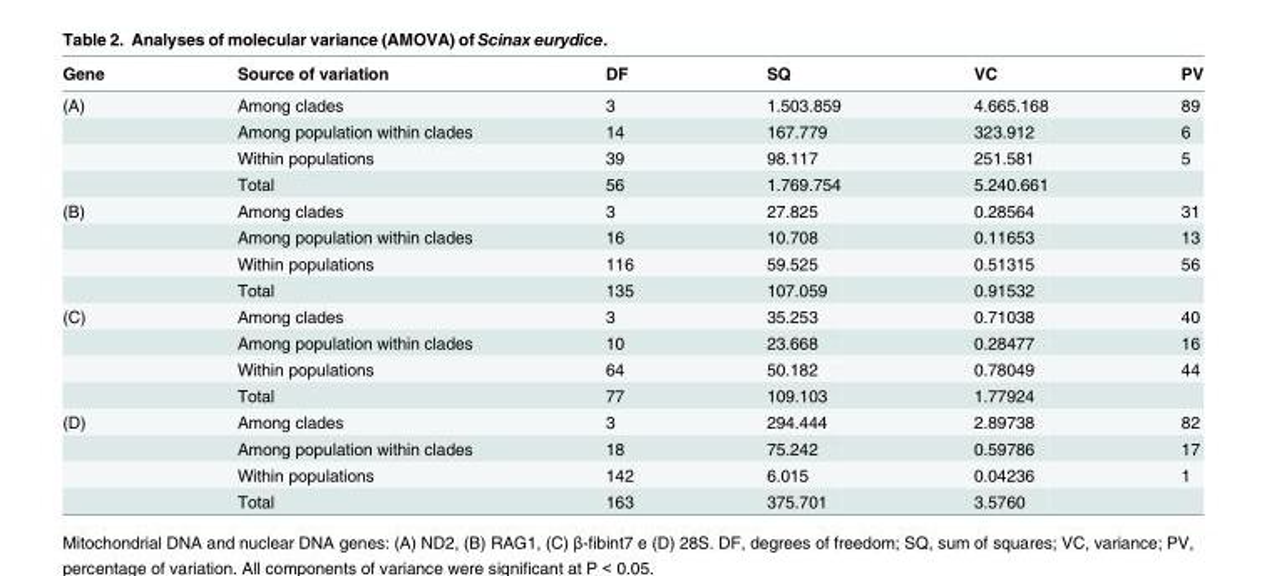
<table><thead><tr><td>Gene</td><td>Source of variation</td><td>DF</td><td>SQ</td><td>VC</td><td>PV</td></tr></thead><tbody><tr><td rowspan="4">(A)</td><td>Among clades</td><td>3</td><td>1.503.859</td><td>4.665.168</td><td>89</td></tr><tr><td>Among population within clades</td><td>14</td><td>167.779</td><td>323.912</td><td>6</td></tr><tr><td>Within populations</td><td>39</td><td>98.117</td><td>251.581</td><td>5</td></tr><tr><td>Total</td><td>56</td><td>1.769.754</td><td>5.240.661</td><td></td></tr><tr><td rowspan="4">(B)</td><td>Among clades</td><td>3</td><td>27.825</td><td>0.28564</td><td>31</td></tr><tr><td>Among population within clades</td><td>16</td><td>10.708</td><td>0.11653</td><td>13</td></tr><tr><td>Within populations</td><td>116</td><td>59.525</td><td>0.51315</td><td>56</td></tr><tr><td>Total</td><td>135</td><td>107.059</td><td>0.91532</td><td></td></tr><tr><td rowspan="4">(C)</td><td>Among clades</td><td>3</td><td>35.253</td><td>0.71038</td><td>40</td></tr><tr><td>Among population within clades</td><td>10</td><td>23.668</td><td>0.28477</td><td>16</td></tr><tr><td>Within populations</td><td>64</td><td>50.182</td><td>0.78049</td><td>44</td></tr><tr><td>Total</td><td>77</td><td>109.103</td><td>1.77924</td><td></td></tr><tr><td rowspan="4">(D)</td><td>Among clades</td><td>3</td><td>294.444</td><td>2.89738</td><td>82</td></tr><tr><td>Among population within clades</td><td>18</td><td>75.242</td><td>0.59786</td><td>17</td></tr><tr><td>Within populations</td><td>142</td><td>6.015</td><td>0.04236</td><td>1</td></tr><tr><td>Total</td><td>163</td><td>375.701</td><td>3.5760</td><td></td></tr></tbody></table>